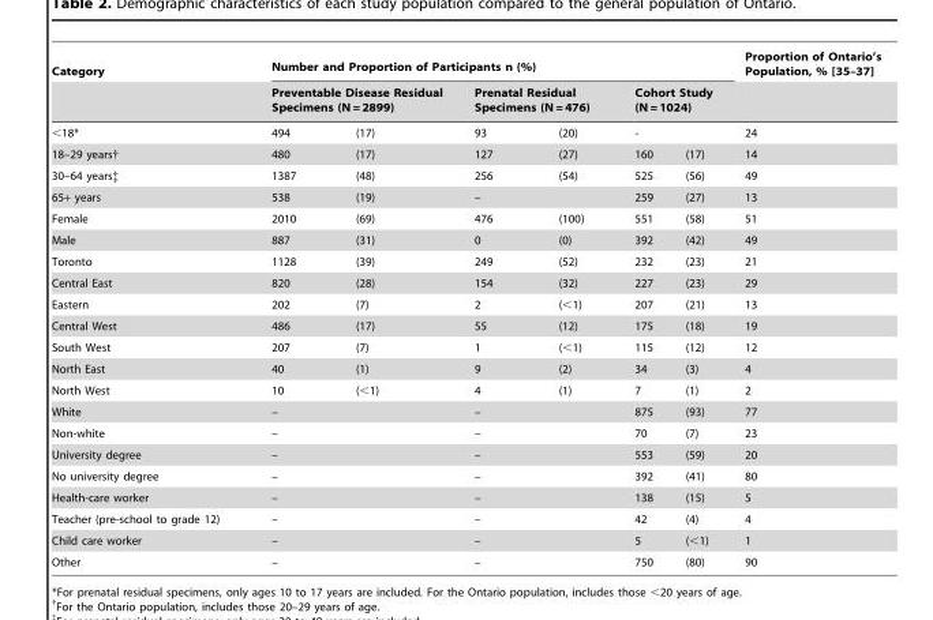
<table><thead><tr><td rowspan="4">Category &lt;18* 18–29 years†</td><td colspan="6">Number and Proportion of Participants n (%)</td><td rowspan="4">Proportion of Ontario’s Population, % [35–37] 24 14</td></tr><tr><td colspan="2">Preventable Disease Residual Specimens (N = 2899)</td><td colspan="2">Prenatal Residual Specimens (N = 476)</td><td rowspan="2" colspan="2">Cohort Study (N = 1024) -</td></tr><tr><td rowspan="2">494 480</td><td rowspan="2">(17) (17)</td><td rowspan="2">93 127</td><td rowspan="2">(20) (27)</td></tr><tr><td>160</td><td>(17)</td></tr></thead><tbody><tr><td>30–64 years‡</td><td>1387</td><td>(48)</td><td>256</td><td>(54)</td><td>525</td><td>(56)</td><td>49</td></tr><tr><td>65+ years</td><td>538</td><td>(19)</td><td colspan="2">–</td><td>259</td><td>(27)</td><td>13</td></tr><tr><td>Female</td><td>2010</td><td>(69)</td><td>476</td><td>(100)</td><td>551</td><td>(58)</td><td>51</td></tr><tr><td>Male</td><td>887</td><td>(31)</td><td>0</td><td>(0)</td><td>392</td><td>(42)</td><td>49</td></tr><tr><td>Toronto</td><td>1128</td><td>(39)</td><td>249</td><td>(52)</td><td>232</td><td>(23)</td><td>21</td></tr><tr><td>Central East</td><td>820</td><td>(28)</td><td>154</td><td>(32)</td><td>227</td><td>(23)</td><td>29</td></tr><tr><td>Eastern</td><td>202</td><td>(7)</td><td>2</td><td>(&lt;1)</td><td>207</td><td>(21)</td><td>13</td></tr><tr><td>Central West</td><td>486</td><td>(17)</td><td>55</td><td>(12)</td><td>175</td><td>(18)</td><td>19</td></tr><tr><td>South West</td><td>207</td><td>(7)</td><td>1</td><td>(&lt;1)</td><td>115</td><td>(12)</td><td>12</td></tr><tr><td>North East</td><td>40</td><td>(1)</td><td>9</td><td>(2)</td><td>34</td><td>(3)</td><td>4</td></tr><tr><td>North West</td><td>10</td><td>(&lt;1)</td><td>4</td><td>(1)</td><td>7</td><td>(1)</td><td>2</td></tr><tr><td>White</td><td colspan="2">–</td><td colspan="2">–</td><td>875</td><td>(93)</td><td>77</td></tr><tr><td>Non-white</td><td colspan="2">–</td><td colspan="2">–</td><td>70</td><td>(7)</td><td>23</td></tr><tr><td>University degree</td><td colspan="2">–</td><td colspan="2">–</td><td>553</td><td>(59)</td><td>20</td></tr><tr><td>No university degree</td><td colspan="2">–</td><td colspan="2">–</td><td>392</td><td>(41)</td><td>80</td></tr><tr><td>Health-care worker</td><td colspan="2">–</td><td colspan="2">–</td><td>138</td><td>(15)</td><td>5</td></tr><tr><td>Teacher (pre-school to grade 12)</td><td colspan="2">–</td><td colspan="2">–</td><td>42</td><td>(4)</td><td>4</td></tr><tr><td>Child care worker</td><td colspan="2">–</td><td colspan="2">–</td><td>5</td><td>(&lt;1)</td><td>1</td></tr><tr><td>Other</td><td colspan="2">–</td><td colspan="2">–</td><td>750</td><td>(80)</td><td>90</td></tr></tbody></table>